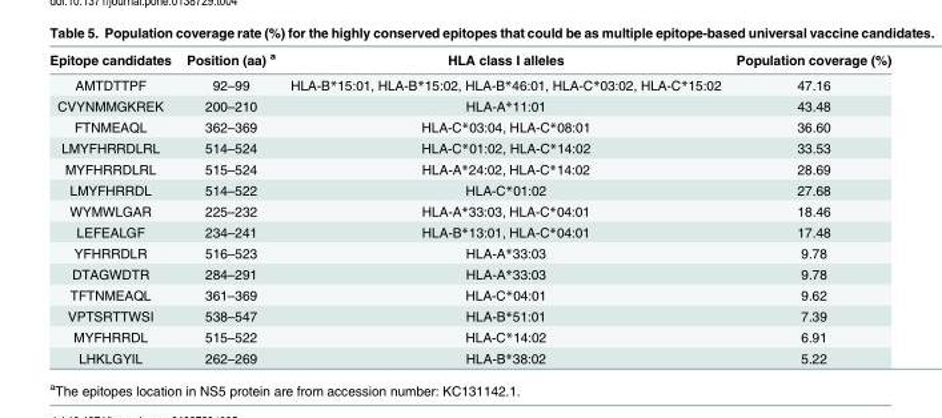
<table><thead><tr><td>Epitope candidates</td><td>Position (aa) <sup>a</sup></td><td>HLA class I alleles</td><td>Population coverage (%)</td></tr></thead><tbody><tr><td>AMTDTTPF</td><td>92–99</td><td>HLA-B*15:01, HLA-B*15:02, HLA-B*46:01, HLA-C*03:02, HLA-C*15:02</td><td>47.16</td></tr><tr><td>CVYNMMGKREK</td><td>200–210</td><td>HLA-A*11:01</td><td>43.48</td></tr><tr><td>FTNMEAQL</td><td>362–369</td><td>HLA-C*03:04, HLA-C*08:01</td><td>36.60</td></tr><tr><td>LMYFHRRDLRL</td><td>514–524</td><td>HLA-C*01:02, HLA-C*14:02</td><td>33.53</td></tr><tr><td>MYFHRRDLRL</td><td>515–524</td><td>HLA-A*24:02, HLA-C*14:02</td><td>28.69</td></tr><tr><td>LMYFHRRDL</td><td>514–522</td><td>HLA-C*01:02</td><td>27.68</td></tr><tr><td>WYMWLGAR</td><td>225–232</td><td>HLA-A*33:03, HLA-C*04:01</td><td>18.46</td></tr><tr><td>LEFEALGF</td><td>234–241</td><td>HLA-B*13:01, HLA-C*04:01</td><td>17.48</td></tr><tr><td>YFHRRDLR</td><td>516–523</td><td>HLA-A*33:03</td><td>9.78</td></tr><tr><td>DTAGWDTR</td><td>284–291</td><td>HLA-A*33:03</td><td>9.78</td></tr><tr><td>TFTNMEAQL</td><td>361–369</td><td>HLA-C*04:01</td><td>9.62</td></tr><tr><td>VPTSRTTWSI</td><td>538–547</td><td>HLA-B*51:01</td><td>7.39</td></tr><tr><td>MYFHRRDL</td><td>515–522</td><td>HLA-C*14:02</td><td>6.91</td></tr><tr><td>LHKLGYIL</td><td>262–269</td><td>HLA-B*38:02</td><td>5.22</td></tr></tbody></table>